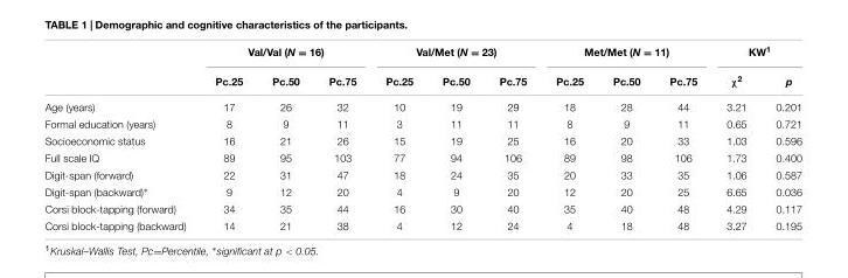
<table><thead><tr><td rowspan="2"></td><td colspan="3">Val/Val (N = 16)</td><td colspan="3">Val/Met (N = 23)</td><td colspan="3">Met/Met (N = 11)</td><td colspan="2">KW<sup>1</sup></td></tr><tr><td>Pc.25</td><td>Pc.50</td><td>Pc.75</td><td>Pc.25</td><td>Pc.50</td><td>Pc.75</td><td>Pc.25</td><td>Pc.50</td><td>Pc.75</td><td>χ<sup>2</sup></td><td>p</td></tr></thead><tbody><tr><td>Age (years)</td><td>17</td><td>26</td><td>32</td><td>10</td><td>19</td><td>29</td><td>18</td><td>28</td><td>44</td><td>3.21</td><td>0.201</td></tr><tr><td>Formal education (years)</td><td>8</td><td>9</td><td>11</td><td>3</td><td>11</td><td>11</td><td>8</td><td>9</td><td>11</td><td>0.65</td><td>0.721</td></tr><tr><td>Socioeconomic status</td><td>16</td><td>21</td><td>26</td><td>15</td><td>19</td><td>25</td><td>16</td><td>20</td><td>33</td><td>1.03</td><td>0.596</td></tr><tr><td>Full scale IQ</td><td>89</td><td>95</td><td>103</td><td>77</td><td>94</td><td>106</td><td>89</td><td>98</td><td>106</td><td>1.73</td><td>0.400</td></tr><tr><td>Digit-span (forward)</td><td>22</td><td>31</td><td>47</td><td>18</td><td>24</td><td>35</td><td>20</td><td>33</td><td>35</td><td>1.06</td><td>0.587</td></tr><tr><td>Digit-span (backward)∗</td><td>9</td><td>12</td><td>20</td><td>4</td><td>9</td><td>20</td><td>12</td><td>20</td><td>25</td><td>6.65</td><td>0.036</td></tr><tr><td>Corsi block-tapping (forward)</td><td>34</td><td>35</td><td>44</td><td>16</td><td>30</td><td>40</td><td>35</td><td>40</td><td>48</td><td>4.29</td><td>0.117</td></tr><tr><td>Corsi block-tapping (backward)</td><td>14</td><td>21</td><td>38</td><td>4</td><td>12</td><td>24</td><td>4</td><td>18</td><td>48</td><td>3.27</td><td>0.195</td></tr></tbody></table>